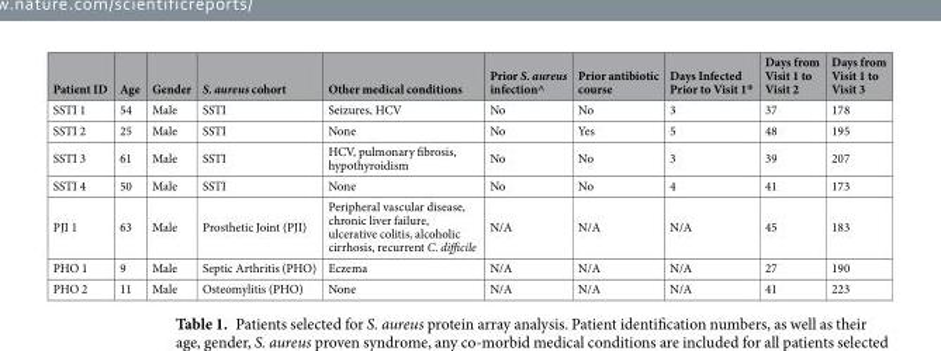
<table><thead><tr><td>Patient ID</td><td>Age</td><td>Gender</td><td>S. aureus cohort</td><td>Other medical conditions</td><td>Prior S. aureus infection^</td><td>Prior antibiotic course</td><td>Days Infected Prior to Visit 1*</td><td>Days from Visit 1 to Visit 2</td><td>Days from Visit 1 to Visit 3</td></tr></thead><tbody><tr><td>SSTI 1</td><td>54</td><td>Male</td><td>SSTI</td><td>Seizures, HCV</td><td>No</td><td>No</td><td>3</td><td>37</td><td>178</td></tr><tr><td>SSTI 2</td><td>25</td><td>Male</td><td>SSTI</td><td>None</td><td>No</td><td>Yes</td><td>5</td><td>48</td><td>195</td></tr><tr><td>SSTI 3</td><td>61</td><td>Male</td><td>SSTI</td><td>HCV, pulmonary fibrosis, hypothyroidism</td><td>No</td><td>No</td><td>3</td><td>39</td><td>207</td></tr><tr><td>SSTI 4</td><td>50</td><td>Male</td><td>SSTI</td><td>None</td><td>No</td><td>No</td><td>4</td><td>41</td><td>173</td></tr><tr><td>PJI 1</td><td>63</td><td>Male</td><td>Prosthetic Joint (PJI)</td><td>Peripheral vascular disease, chronic liver failure, ulcerative colitis, alcoholic cirrhosis, recurrent C. difficile</td><td>N/A</td><td>N/A</td><td>N/A</td><td>45</td><td>183</td></tr><tr><td>PHO 1</td><td>9</td><td>Male</td><td>Septic Arthritis (PHO)</td><td>Eczema</td><td>N/A</td><td>N/A</td><td>N/A</td><td>27</td><td>190</td></tr><tr><td>PHO 2</td><td>11</td><td>Male</td><td>Osteomylitis (PHO)</td><td>None</td><td>N/A</td><td>N/A</td><td>N/A</td><td>41</td><td>223</td></tr></tbody></table>